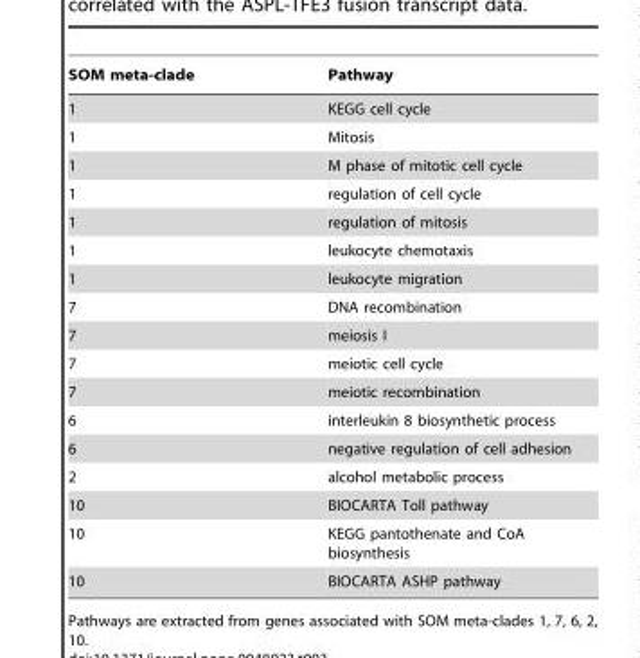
<table><thead><tr><td>SOM meta-clade</td><td>Pathway</td></tr></thead><tbody><tr><td>1</td><td>KEGG cell cycle</td></tr><tr><td>1</td><td>Mitosis</td></tr><tr><td>1</td><td>M phase of mitotic cell cycle</td></tr><tr><td>1</td><td>regulation of cell cycle</td></tr><tr><td>1</td><td>regulation of mitosis</td></tr><tr><td>1</td><td>leukocyte chemotaxis</td></tr><tr><td>1</td><td>leukocyte migration</td></tr><tr><td>7</td><td>DNA recombination</td></tr><tr><td>7</td><td>meiosis I</td></tr><tr><td>7</td><td>meiotic cell cycle</td></tr><tr><td>7</td><td>meiotic recombination</td></tr><tr><td>6</td><td>interleukin 8 biosynthetic process</td></tr><tr><td>6</td><td>negative regulation of cell adhesion</td></tr><tr><td>2</td><td>alcohol metabolic process</td></tr><tr><td>10</td><td>BIOCARTA Toll pathway</td></tr><tr><td>10</td><td>KEGG pantothenate and CoA biosynthesis</td></tr><tr><td>10</td><td>BIOCARTA ASHP pathway</td></tr></tbody></table>